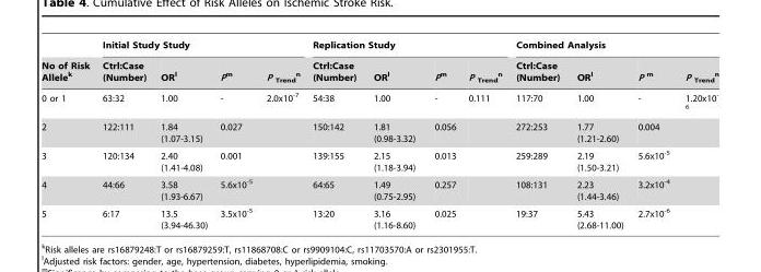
<table><thead><tr><td rowspan="2">No of Risk Allele<sup>k</sup></td><td colspan="4">Initial Study Study</td><td colspan="4">Replication Study</td><td colspan="4">Combined Analysis</td></tr><tr><td>Ctrl:Case (Number)</td><td>OR<sup>l</sup></td><td>Pm</td><td>P <sub>Trend</sub> n</td><td>Ctrl:Case (Number)</td><td>OR<sup>l</sup></td><td>Pm</td><td>P <sub>Trend</sub> n</td><td>Ctrl:Case (Number)</td><td>OR<sup>l</sup></td><td>P m</td><td>P <sub>Trend</sub> n</td></tr></thead><tbody><tr><td>0 or 1</td><td>63:32</td><td>1.00</td><td>-</td><td>2.0x10<sup>-7</sup></td><td>54:38</td><td>1.00</td><td>-</td><td>0.111</td><td>117:70</td><td>1.00</td><td>-</td><td>1.20x10<sup>- 6</sup></td></tr><tr><td>2</td><td>122:111</td><td>1.84 (1.07-3.15)</td><td>0.027</td><td></td><td>150:142</td><td>1.81 (0.98-3.32)</td><td>0.056</td><td></td><td>272:253</td><td>1.77 (1.21-2.60)</td><td>0.004</td><td></td></tr><tr><td>3</td><td>120:134</td><td>2.40 (1.41-4.08)</td><td>0.001</td><td></td><td>139:155</td><td>2.15 (1.18-3.94)</td><td>0.013</td><td></td><td>259:289</td><td>2.19 (1.50-3.21)</td><td>5.6x10<sup>-5</sup></td><td></td></tr><tr><td>4</td><td>44:66</td><td>3.58 (1.93-6.67)</td><td>5.6x10<sup>-5</sup></td><td></td><td>64:65</td><td>1.49 (0.75-2.95)</td><td>0.257</td><td></td><td>108:131</td><td>2.23 (1.44-3.46)</td><td>3.2x10<sup>-4</sup></td><td></td></tr><tr><td>5</td><td>6:17</td><td>13.5 (3.94-46.30)</td><td>3.5x10<sup>-5</sup></td><td></td><td>13:20</td><td>3.16 (1.16-8.60)</td><td>0.025</td><td></td><td>19:37</td><td>5.43 (2.68-11.00)</td><td>2.7x10<sup>-6</sup></td><td></td></tr></tbody></table>